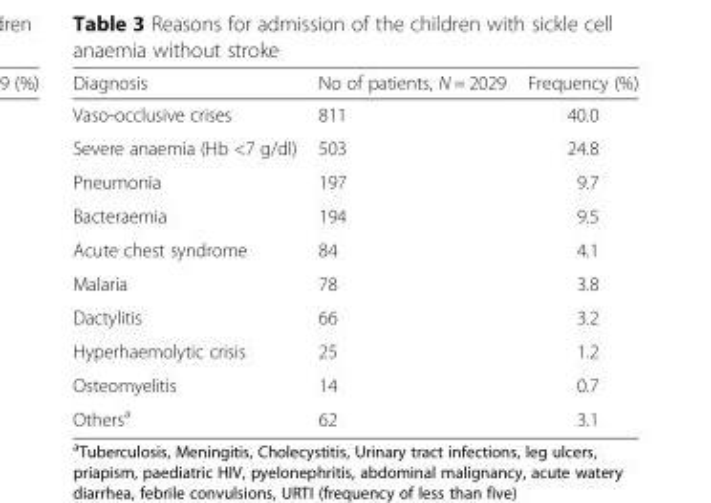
<table><thead><tr><td>Diagnosis</td><td>No of patients, N = 2029</td><td>Frequency (%)</td></tr></thead><tbody><tr><td>Vaso-occlusive crises</td><td>811</td><td>40.0</td></tr><tr><td>Severe anaemia (Hb &lt;7 g/dl)</td><td>503</td><td>24.8</td></tr><tr><td>Pneumonia</td><td>197</td><td>9.7</td></tr><tr><td>Bacteraemia</td><td>194</td><td>9.5</td></tr><tr><td>Acute chest syndrome</td><td>84</td><td>4.1</td></tr><tr><td>Malaria</td><td>78</td><td>3.8</td></tr><tr><td>Dactylitis</td><td>66</td><td>3.2</td></tr><tr><td>Hyperhaemolytic crisis</td><td>25</td><td>1.2</td></tr><tr><td>Osteomyelitis</td><td>14</td><td>0.7</td></tr><tr><td>Others<sup>a</sup></td><td>62</td><td>3.1</td></tr></tbody></table>